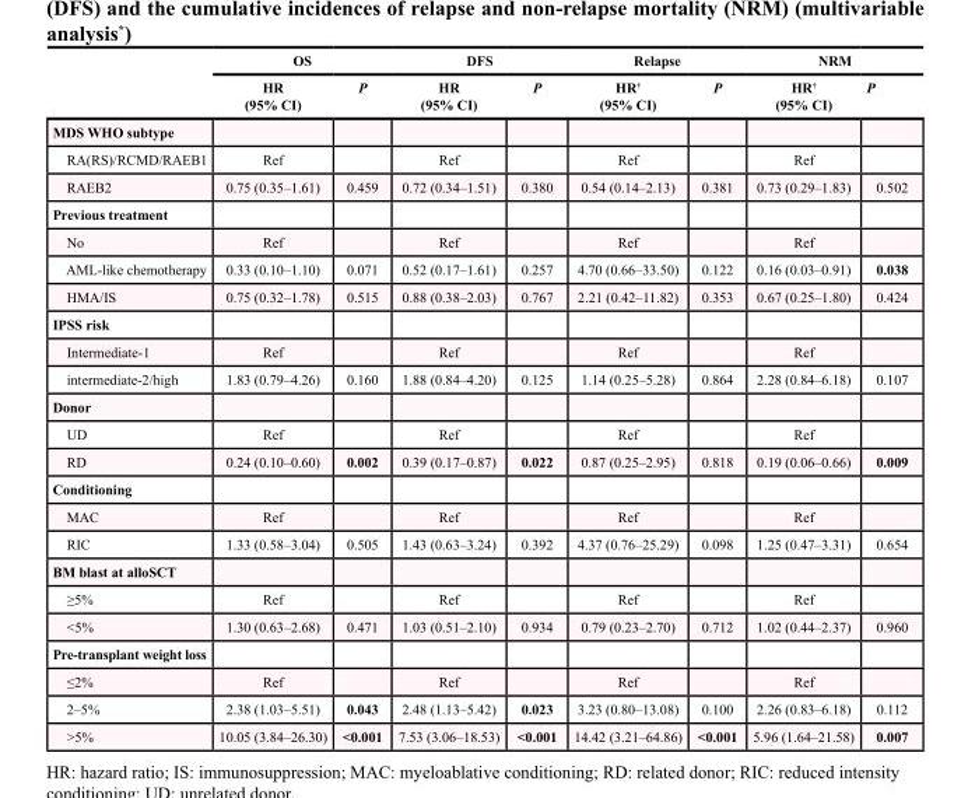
<table><thead><tr><td rowspan="2"></td><td colspan="2">OS</td><td colspan="2">DFS</td><td colspan="2">Relapse</td><td colspan="2">NRM</td></tr><tr><td>HR (95% CI)</td><td>P</td><td>HR (95% CI)</td><td>P</td><td>HR<sup>†</sup> (95% CI)</td><td>P</td><td>HR<sup>†</sup> (95% CI)</td><td>P</td></tr></thead><tbody><tr><td colspan="9">MDS WHO subtype</td></tr><tr><td>RA(RS)/RCMD/RAEB1</td><td>Ref</td><td></td><td>Ref</td><td></td><td>Ref</td><td></td><td>Ref</td><td></td></tr><tr><td>RAEB2</td><td>0.75 (0.35–1.61)</td><td>0.459</td><td>0.72 (0.34–1.51)</td><td>0.380</td><td>0.54 (0.14–2.13)</td><td>0.381</td><td>0.73 (0.29–1.83)</td><td>0.502</td></tr><tr><td colspan="9">Previous treatment</td></tr><tr><td>No</td><td>Ref</td><td></td><td>Ref</td><td></td><td>Ref</td><td></td><td>Ref</td><td></td></tr><tr><td>AML-like chemotherapy</td><td>0.33 (0.10–1.10)</td><td>0.071</td><td>0.52 (0.17–1.61)</td><td>0.257</td><td>4.70 (0.66–33.50)</td><td>0.122</td><td>0.16 (0.03–0.91)</td><td>0.038</td></tr><tr><td>HMA/IS</td><td>0.75 (0.32–1.78)</td><td>0.515</td><td>0.88 (0.38–2.03)</td><td>0.767</td><td>2.21 (0.42–11.82)</td><td>0.353</td><td>0.67 (0.25–1.80)</td><td>0.424</td></tr><tr><td colspan="9">IPSS risk</td></tr><tr><td>Intermediate-1</td><td>Ref</td><td></td><td>Ref</td><td></td><td>Ref</td><td></td><td>Ref</td><td></td></tr><tr><td>intermediate-2/high</td><td>1.83 (0.79–4.26)</td><td>0.160</td><td>1.88 (0.84–4.20)</td><td>0.125</td><td>1.14 (0.25–5.28)</td><td>0.864</td><td>2.28 (0.84–6.18)</td><td>0.107</td></tr><tr><td colspan="9">Donor</td></tr><tr><td>UD</td><td>Ref</td><td></td><td>Ref</td><td></td><td>Ref</td><td></td><td>Ref</td><td></td></tr><tr><td>RD</td><td>0.24 (0.10–0.60)</td><td>0.002</td><td>0.39 (0.17–0.87)</td><td>0.022</td><td>0.87 (0.25–2.95)</td><td>0.818</td><td>0.19 (0.06–0.66)</td><td>0.009</td></tr><tr><td colspan="9">Conditioning</td></tr><tr><td>MAC</td><td>Ref</td><td></td><td>Ref</td><td></td><td>Ref</td><td></td><td>Ref</td><td></td></tr><tr><td>RIC</td><td>1.33 (0.58–3.04)</td><td>0.505</td><td>1.43 (0.63–3.24)</td><td>0.392</td><td>4.37 (0.76–25.29)</td><td>0.098</td><td>1.25 (0.47–3.31)</td><td>0.654</td></tr><tr><td colspan="9">BM blast at alloSCT</td></tr><tr><td>≥5%</td><td>Ref</td><td></td><td>Ref</td><td></td><td>Ref</td><td></td><td>Ref</td><td></td></tr><tr><td>&lt;5%</td><td>1.30 (0.63–2.68)</td><td>0.471</td><td>1.03 (0.51–2.10)</td><td>0.934</td><td>0.79 (0.23–2.70)</td><td>0.712</td><td>1.02 (0.44–2.37)</td><td>0.960</td></tr><tr><td colspan="9">Pre-transplant weight loss</td></tr><tr><td>≤2%</td><td>Ref</td><td></td><td>Ref</td><td></td><td>Ref</td><td></td><td>Ref</td><td></td></tr><tr><td>2–5%</td><td>2.38 (1.03–5.51)</td><td>0.043</td><td>2.48 (1.13–5.42)</td><td>0.023</td><td>3.23 (0.80–13.08)</td><td>0.100</td><td>2.26 (0.83–6.18)</td><td>0.112</td></tr><tr><td>&gt;5%</td><td>10.05 (3.84–26.30)</td><td>&lt;0.001</td><td>7.53 (3.06–18.53)</td><td>&lt;0.001</td><td>14.42 (3.21–64.86)</td><td>&lt;0.001</td><td>5.96 (1.64–21.58)</td><td>0.007</td></tr></tbody></table>